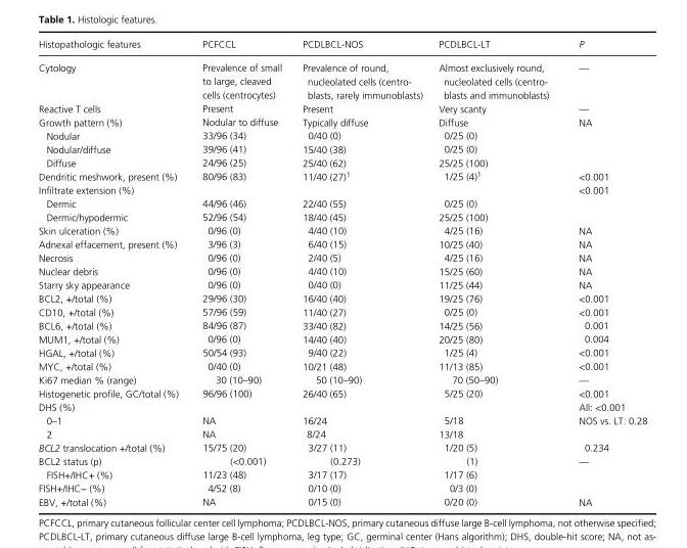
<table><thead><tr><td>Histopathologic features</td><td>PCFCCL</td><td>PCDLBCL- NOS</td><td>PCDLBCL- LT</td><td>P</td></tr></thead><tbody><tr><td>Cytology</td><td>Prevalence of small to large, cleaved cells (centrocytes)</td><td>Prevalence of round, nucleolated cells (centro- blasts, rarely immunoblasts)</td><td>Almost exclusively round, nucleolated cells (centro- blasts and immunoblasts)</td><td>—</td></tr><tr><td>Reactive T cells</td><td>Present</td><td>Present</td><td>Very scanty</td><td>—</td></tr><tr><td>Growth pattern (%)</td><td>Nodular to diffuse</td><td>Typically diffuse</td><td>Diffuse</td><td>NA</td></tr><tr><td>Nodular</td><td>33/96 (34)</td><td>0/40 (0)</td><td>0/25 (0)</td><td></td></tr><tr><td>Nodular/diffuse</td><td>39/96 (41)</td><td>15/40 (38)</td><td>0/25 (0)</td><td></td></tr><tr><td>Diffuse</td><td>24/96 (25)</td><td>25/40 (62)</td><td>25/25 (100)</td><td></td></tr><tr><td>Dendritic meshwork, present (%)</td><td>80/96 (83)</td><td>11/40 (27)1</td><td>1/25 (4)1</td><td>&lt;0.001</td></tr><tr><td>Infiltrate extension (%)</td><td></td><td></td><td></td><td>&lt;0.001</td></tr><tr><td>Dermic</td><td>44/96 (46)</td><td>22/40 (55)</td><td>0/25 (0)</td><td></td></tr><tr><td>Dermic/hypodermic</td><td>52/96 (54)</td><td>18/40 (45)</td><td>25/25 (100)</td><td></td></tr><tr><td>Skin ulceration (%)</td><td>0/96 (0)</td><td>4/40 (10)</td><td>4/25 (16)</td><td>NA</td></tr><tr><td>Adnexal effacement, present (%)</td><td>3/96 (3)</td><td>6/40 (15)</td><td>10/25 (40)</td><td>NA</td></tr><tr><td>Necrosis</td><td>0/96 (0)</td><td>2/40 (5)</td><td>4/25 (16)</td><td>NA</td></tr><tr><td>Nuclear debris</td><td>0/96 (0)</td><td>4/40 (10)</td><td>15/25 (60)</td><td>NA</td></tr><tr><td>Starry sky appearance</td><td>0/96 (0)</td><td>0/40 (0)</td><td>11/25 (44)</td><td>NA</td></tr><tr><td>BCL2, +/total (%)</td><td>29/96 (30)</td><td>16/40 (40)</td><td>19/25 (76)</td><td>&lt;0.001</td></tr><tr><td>CD10, +/total (%)</td><td>57/96 (59)</td><td>11/40 (27)</td><td>0/25 (0)</td><td>&lt;0.001</td></tr><tr><td>BCL6, +/total (%)</td><td>84/96 (87)</td><td>33/40 (82)</td><td>14/25 (56)</td><td>0.001</td></tr><tr><td>MUM1, +/total (%)</td><td>0/96 (0)</td><td>14/40 (40)</td><td>20/25 (80)</td><td>0.004</td></tr><tr><td>HGAL, +/total (%)</td><td>50/54 (93)</td><td>9/40 (22)</td><td>1/25 (4)</td><td>&lt;0.001</td></tr><tr><td>MYC, +/total (%)</td><td>0/40 (0)</td><td>10/21 (48)</td><td>11/13 (85)</td><td>&lt;0.001</td></tr><tr><td>Ki67 median % (range)</td><td>30 (10–90)</td><td>50 (10–90)</td><td>70 (50–90)</td><td>—</td></tr><tr><td>Histogenetic profile, GC/total (%)</td><td>96/96 (100)</td><td>26/40 (65)</td><td>5/25 (20)</td><td>&lt;0.001</td></tr><tr><td>DHS (%)</td><td></td><td></td><td></td><td>All: &lt;0.001</td></tr><tr><td>0–1</td><td>NA</td><td>16/24</td><td>5/18</td><td>NOS vs. LT: 0.28</td></tr><tr><td>2</td><td>NA</td><td>8/24</td><td>13/18</td><td></td></tr><tr><td>BCL2 translocation +/total (%)</td><td>15/75 (20)</td><td>3/27 (11)</td><td>1/20 (5)</td><td>0.234</td></tr><tr><td>BCL2 status (p)</td><td>(&lt;0.001)</td><td>(0.273)</td><td>(1)</td><td>—</td></tr><tr><td>FISH+/IHC+ (%)</td><td>11/23 (48)</td><td>3/17 (17)</td><td>1/17 (6)</td><td></td></tr><tr><td>FISH+/IHC− (%)</td><td>4/52 (8)</td><td>0/10 (0)</td><td>0/3 (0)</td><td></td></tr><tr><td>EBV, +/total (%)</td><td>NA</td><td>0/15 (0)</td><td>0/20 (0)</td><td>NA</td></tr></tbody></table>